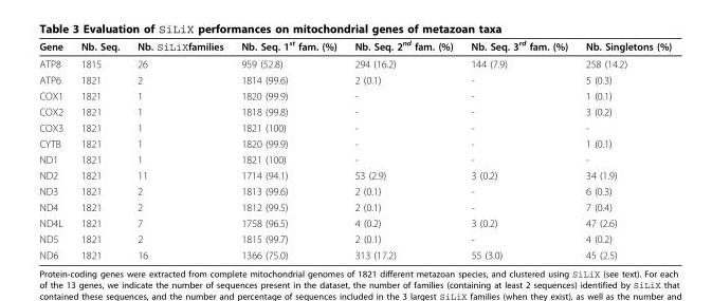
<table><thead><tr><td>Gene</td><td>Nb. Seq.</td><td>Nb. SiLiXfamilies</td><td>Nb. Seq. 1<sup>st</sup> fam. (%)</td><td>Nb. Seq. 2<sup>nd</sup> fam. (%)</td><td>Nb. Seq. 3<sup>rd</sup> fam. (%)</td><td>Nb. Singletons (%)</td></tr></thead><tbody><tr><td>ATP8</td><td>1815</td><td>26</td><td>959 (52.8)</td><td>294 (16.2)</td><td>144 (7.9)</td><td>258 (14.2)</td></tr><tr><td>ATP6</td><td>1821</td><td>2</td><td>1814 (99.6)</td><td>2 (0.1)</td><td>-</td><td>5 (0.3)</td></tr><tr><td>COX1</td><td>1821</td><td>1</td><td>1820 (99.9)</td><td>-</td><td>-</td><td>1 (0.1)</td></tr><tr><td>COX2</td><td>1821</td><td>1</td><td>1818 (99.8)</td><td>-</td><td>-</td><td>3 (0.2)</td></tr><tr><td>COX3</td><td>1821</td><td>1</td><td>1821 (100)</td><td>-</td><td>-</td><td>-</td></tr><tr><td>CYTB</td><td>1821</td><td>1</td><td>1820 (99.9)</td><td>-</td><td>-</td><td>1 (0.1)</td></tr><tr><td>ND1</td><td>1821</td><td>1</td><td>1821 (100)</td><td>-</td><td>-</td><td>-</td></tr><tr><td>ND2</td><td>1821</td><td>11</td><td>1714 (94.1)</td><td>53 (2.9)</td><td>3 (0.2)</td><td>34 (1.9)</td></tr><tr><td>ND3</td><td>1821</td><td>2</td><td>1813 (99.6)</td><td>2 (0.1)</td><td>-</td><td>6 (0.3)</td></tr><tr><td>ND4</td><td>1821</td><td>2</td><td>1812 (99.5)</td><td>2 (0.1)</td><td>-</td><td>7 (0.4)</td></tr><tr><td>ND4L</td><td>1821</td><td>7</td><td>1758 (96.5)</td><td>4 (0.2)</td><td>3 (0.2)</td><td>47 (2.6)</td></tr><tr><td>ND5</td><td>1821</td><td>2</td><td>1815 (99.7)</td><td>2 (0.1)</td><td>-</td><td>4 (0.2)</td></tr><tr><td>ND6</td><td>1821</td><td>16</td><td>1366 (75.0)</td><td>313 (17.2)</td><td>55 (3.0)</td><td>45 (2.5)</td></tr></tbody></table>